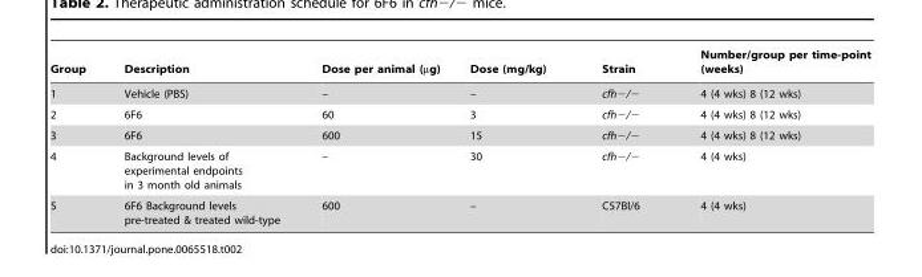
<table><thead><tr><td>Group</td><td>Description</td><td>Dose per animal (µg)</td><td>Dose (mg/kg)</td><td>Strain</td><td>Number/group per time-point (weeks)</td></tr></thead><tbody><tr><td>1</td><td>Vehicle (PBS)</td><td>–</td><td>–</td><td>cfh−/−</td><td>4 (4 wks) 8 (12 wks)</td></tr><tr><td>2</td><td>6F6</td><td>60</td><td>3</td><td>cfh−/−</td><td>4 (4 wks) 8 (12 wks)</td></tr><tr><td>3</td><td>6F6</td><td>600</td><td>15</td><td>cfh−/−</td><td>4 (4 wks) 8 (12 wks)</td></tr><tr><td>4</td><td>Background levels of experimental endpoints in 3 month old animals</td><td>–</td><td>30</td><td>cfh−/−</td><td>4 (4 wks)</td></tr><tr><td>5</td><td>6F6 Background levels pre-treated &amp; treated wild-type</td><td>600</td><td>–</td><td>C57Bl/6</td><td>4 (4 wks)</td></tr></tbody></table>